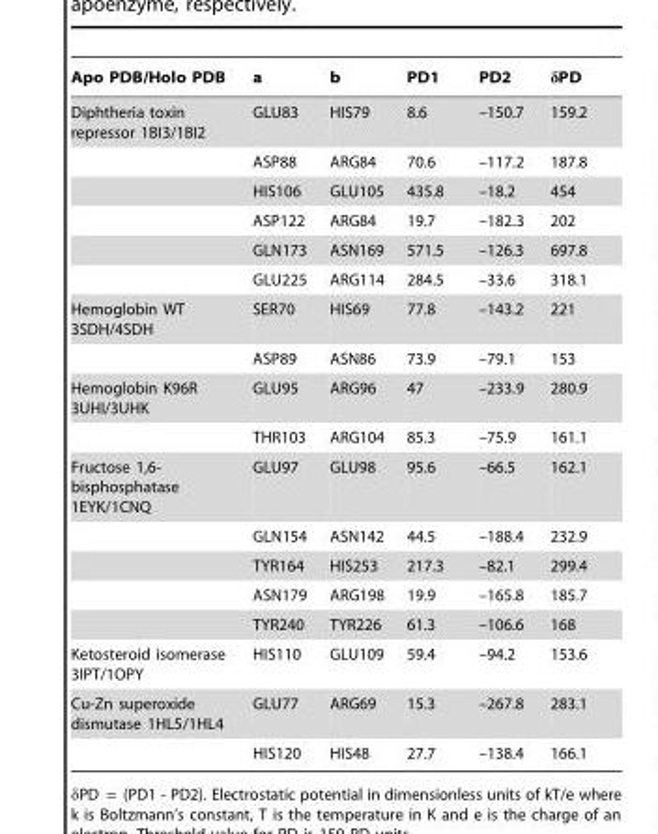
<table><thead><tr><td>Apo PDB/Holo PDB</td><td>a</td><td>b</td><td>PD1</td><td>PD2</td><td>δPD</td></tr></thead><tbody><tr><td rowspan="6">Diphtheria toxin repressor 1BI3/1BI2</td><td>GLU83</td><td>HIS79</td><td>8.6</td><td>–150.7</td><td>159.2</td></tr><tr><td>ASP88</td><td>ARG84</td><td>70.6</td><td>–117.2</td><td>187.8</td></tr><tr><td>HIS106</td><td>GLU105</td><td>435.8</td><td>–18.2</td><td>454</td></tr><tr><td>ASP122</td><td>ARG84</td><td>19.7</td><td>–182.3</td><td>202</td></tr><tr><td>GLN173</td><td>ASN169</td><td>571.5</td><td>–126.3</td><td>697.8</td></tr><tr><td>GLU225</td><td>ARG114</td><td>284.5</td><td>–33.6</td><td>318.1</td></tr><tr><td rowspan="2">Hemoglobin WT 3SDH/4SDH</td><td>SER70</td><td>HIS69</td><td>77.8</td><td>–143.2</td><td>221</td></tr><tr><td>ASP89</td><td>ASN86</td><td>73.9</td><td>–79.1</td><td>153</td></tr><tr><td rowspan="2">Hemoglobin K96R 3UHI/3UHK</td><td>GLU95</td><td>ARG96</td><td>47</td><td>–233.9</td><td>280.9</td></tr><tr><td>THR103</td><td>ARG104</td><td>85.3</td><td>–75.9</td><td>161.1</td></tr><tr><td rowspan="5">Fructose 1,6- bisphosphatase 1EYK/1CNQ</td><td>GLU97</td><td>GLU98</td><td>95.6</td><td>–66.5</td><td>162.1</td></tr><tr><td>GLN154</td><td>ASN142</td><td>44.5</td><td>–188.4</td><td>232.9</td></tr><tr><td>TYR164</td><td>HIS253</td><td>217.3</td><td>–82.1</td><td>299.4</td></tr><tr><td>ASN179</td><td>ARG198</td><td>19.9</td><td>–165.8</td><td>185.7</td></tr><tr><td>TYR240</td><td>TYR226</td><td>61.3</td><td>–106.6</td><td>168</td></tr><tr><td>Ketosteroid isomerase 3IPT/1OPY</td><td>HIS110</td><td>GLU109</td><td>59.4</td><td>–94.2</td><td>153.6</td></tr><tr><td rowspan="2">Cu-Zn superoxide dismutase 1HL5/1HL4</td><td>GLU77</td><td>ARG69</td><td>15.3</td><td>–267.8</td><td>283.1</td></tr><tr><td>HIS120</td><td>HIS48</td><td>27.7</td><td>–138.4</td><td>166.1</td></tr></tbody></table>